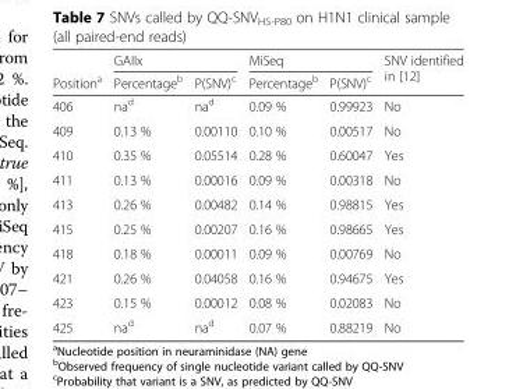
<table><thead><tr><td rowspan="2">Position<sup>a</sup></td><td colspan="2">GAIIx</td><td colspan="2">MiSeq</td><td rowspan="2">SNV identified in [12]</td></tr><tr><td>Percentage<sup>b</sup></td><td>P(SNV)<sup>c</sup></td><td>Percentage<sup>b</sup></td><td>P(SNV)<sup>c</sup></td></tr></thead><tbody><tr><td>406</td><td>na<sup>d</sup></td><td>na<sup>d</sup></td><td>0.09 %</td><td>0.99923</td><td>No</td></tr><tr><td>409</td><td>0.13 %</td><td>0.00110</td><td>0.10 %</td><td>0.00517</td><td>No</td></tr><tr><td>410</td><td>0.35 %</td><td>0.05514</td><td>0.28 %</td><td>0.60047</td><td>Yes</td></tr><tr><td>411</td><td>0.13 %</td><td>0.00016</td><td>0.09 %</td><td>0.00318</td><td>No</td></tr><tr><td>413</td><td>0.26 %</td><td>0.00482</td><td>0.14 %</td><td>0.98815</td><td>Yes</td></tr><tr><td>415</td><td>0.25 %</td><td>0.00207</td><td>0.16 %</td><td>0.98665</td><td>Yes</td></tr><tr><td>418</td><td>0.18 %</td><td>0.00011</td><td>0.09 %</td><td>0.00769</td><td>No</td></tr><tr><td>421</td><td>0.26 %</td><td>0.04058</td><td>0.16 %</td><td>0.94675</td><td>Yes</td></tr><tr><td>423</td><td>0.15 %</td><td>0.00012</td><td>0.08 %</td><td>0.02083</td><td>No</td></tr><tr><td>425</td><td>na<sup>d</sup></td><td>na<sup>d</sup></td><td>0.07 %</td><td>0.88219</td><td>No</td></tr></tbody></table>